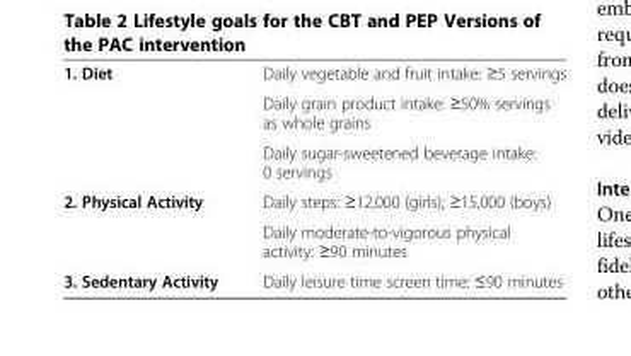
<table><tbody><tr><td rowspan="3">1. Diet</td><td>Daily vegetable and fruit intake: ≥5 servings</td></tr><tr><td>Daily grain product intake: ≥50% servings as whole grains</td></tr><tr><td>Daily sugar-sweetened beverage intake: 0 servings</td></tr><tr><td rowspan="2">2. Physical Activity</td><td>Daily steps: ≥12,000 (girls); ≥15,000 (boys)</td></tr><tr><td>Daily moderate-to-vigorous physical activity: ≥90 minutes</td></tr><tr><td>3. Sedentary Activity</td><td>Daily leisure time screen time: ≤90 minutes</td></tr></tbody></table>